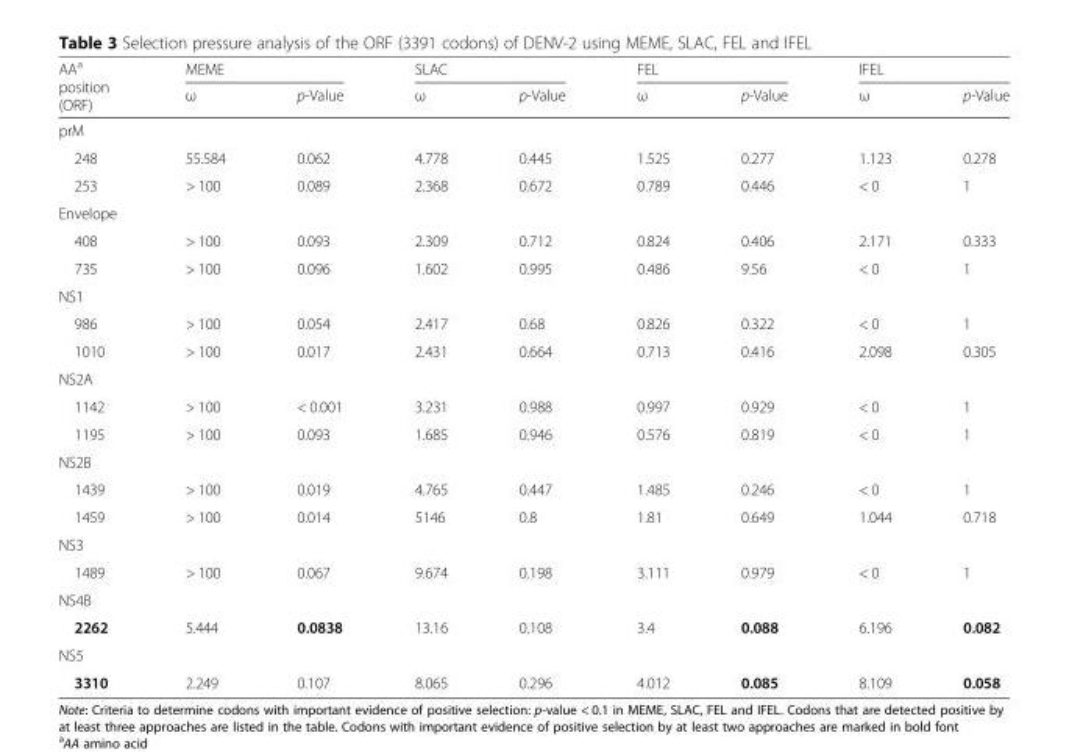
<table><thead><tr><td rowspan="2">AA<sup>a</sup> position (ORF)</td><td colspan="2">MEME</td><td colspan="2">SLAC</td><td colspan="2">FEL</td><td colspan="2">IFEL</td></tr><tr><td>ω</td><td>p-Value</td><td>ω</td><td>p-Value</td><td>ω</td><td>p-Value</td><td>ω</td><td>p-Value</td></tr></thead><tbody><tr><td colspan="9">prM</td></tr><tr><td>248</td><td>55.584</td><td>0.062</td><td>4.778</td><td>0.445</td><td>1.525</td><td>0.277</td><td>1.123</td><td>0.278</td></tr><tr><td>253</td><td>&gt; 100</td><td>0.089</td><td>2.368</td><td>0.672</td><td>0.789</td><td>0.446</td><td>&lt; 0</td><td>1</td></tr><tr><td colspan="9">Envelope</td></tr><tr><td>408</td><td>&gt; 100</td><td>0.093</td><td>2.309</td><td>0.712</td><td>0.824</td><td>0.406</td><td>2.171</td><td>0.333</td></tr><tr><td>735</td><td>&gt; 100</td><td>0.096</td><td>1.602</td><td>0.995</td><td>0.486</td><td>9.56</td><td>&lt; 0</td><td>1</td></tr><tr><td colspan="9">NS1</td></tr><tr><td>986</td><td>&gt; 100</td><td>0.054</td><td>2.417</td><td>0.68</td><td>0.826</td><td>0.322</td><td>&lt; 0</td><td>1</td></tr><tr><td>1010</td><td>&gt; 100</td><td>0.017</td><td>2.431</td><td>0.664</td><td>0.713</td><td>0.416</td><td>2.098</td><td>0.305</td></tr><tr><td colspan="9">NS2A</td></tr><tr><td>1142</td><td>&gt; 100</td><td>&lt; 0.001</td><td>3.231</td><td>0.988</td><td>0.997</td><td>0.929</td><td>&lt; 0</td><td>1</td></tr><tr><td>1195</td><td>&gt; 100</td><td>0.093</td><td>1.685</td><td>0.946</td><td>0.576</td><td>0.819</td><td>&lt; 0</td><td>1</td></tr><tr><td colspan="9">NS2B</td></tr><tr><td>1439</td><td>&gt; 100</td><td>0.019</td><td>4.765</td><td>0.447</td><td>1.485</td><td>0.246</td><td>&lt; 0</td><td>1</td></tr><tr><td>1459</td><td>&gt; 100</td><td>0.014</td><td>5146</td><td>0.8</td><td>1.81</td><td>0.649</td><td>1.044</td><td>0.718</td></tr><tr><td colspan="9">NS3</td></tr><tr><td>1489</td><td>&gt; 100</td><td>0.067</td><td>9.674</td><td>0.198</td><td>3.111</td><td>0.979</td><td>&lt; 0</td><td>1</td></tr><tr><td colspan="9">NS4B</td></tr><tr><td>2262</td><td>5.444</td><td>0.0838</td><td>13.16</td><td>0.108</td><td>3.4</td><td>0.088</td><td>6.196</td><td>0.082</td></tr><tr><td colspan="9">NS5</td></tr><tr><td>3310</td><td>2.249</td><td>0.107</td><td>8.065</td><td>0.296</td><td>4.012</td><td>0.085</td><td>8.109</td><td>0.058</td></tr></tbody></table>